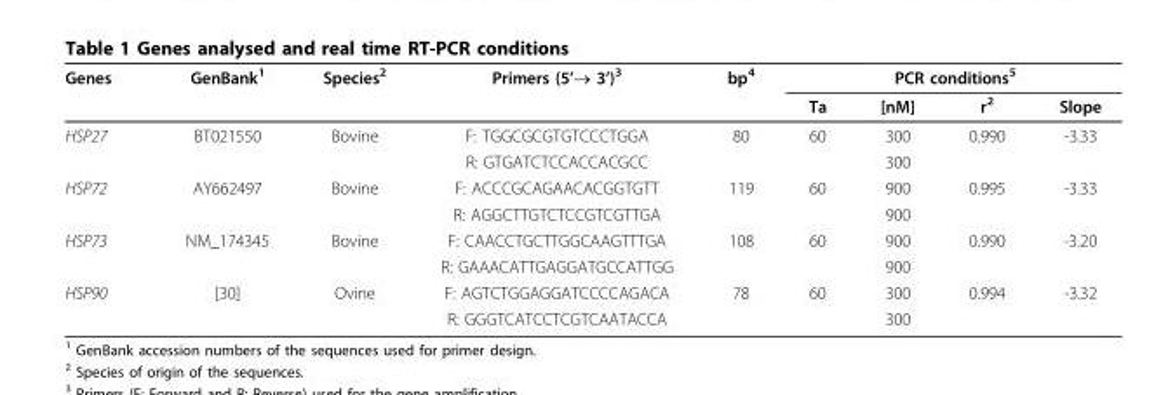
<table><thead><tr><td rowspan="2">Genes</td><td rowspan="2">GenBank<sup>1</sup></td><td rowspan="2">Species<sup>2</sup></td><td rowspan="2">Primers (5’→ 3’)<sup>3</sup></td><td rowspan="2">bp<sup>4</sup></td><td colspan="4">PCR conditions<sup>5</sup></td></tr><tr><td>Ta</td><td>[nM]</td><td>r<sup>2</sup></td><td>Slope</td></tr></thead><tbody><tr><td rowspan="2">HSP27</td><td>BT021550</td><td>Bovine</td><td>F: TGGCGCGTGTCCCTGGA</td><td>80</td><td>60</td><td>300</td><td>0.990</td><td>-3.33</td></tr><tr><td></td><td></td><td>R: GTGATCTCCACCACGCC</td><td></td><td></td><td>300</td><td></td><td></td></tr><tr><td rowspan="2">HSP72</td><td>AY662497</td><td>Bovine</td><td>F: ACCCGCAGAACACGGTGTT</td><td>119</td><td>60</td><td>900</td><td>0.995</td><td>-3.33</td></tr><tr><td></td><td></td><td>R: AGGCTTGTCTCCGTCGTTGA</td><td></td><td></td><td>900</td><td></td><td></td></tr><tr><td rowspan="2">HSP73</td><td>NM_174345</td><td>Bovine</td><td>F: CAACCTGCTTGGCAAGTTTGA</td><td>108</td><td>60</td><td>900</td><td>0.990</td><td>-3.20</td></tr><tr><td></td><td></td><td>R: GAAACATTGAGGATGCCATTGG</td><td></td><td></td><td>900</td><td></td><td></td></tr><tr><td rowspan="2">HSP90</td><td>[30]</td><td>Ovine</td><td>F: AGTCTGGAGGATCCCCAGACA</td><td>78</td><td>60</td><td>300</td><td>0.994</td><td>-3.32</td></tr><tr><td></td><td></td><td>R: GGGTCATCCTCGTCAATACCA</td><td></td><td></td><td>300</td><td></td><td></td></tr></tbody></table>